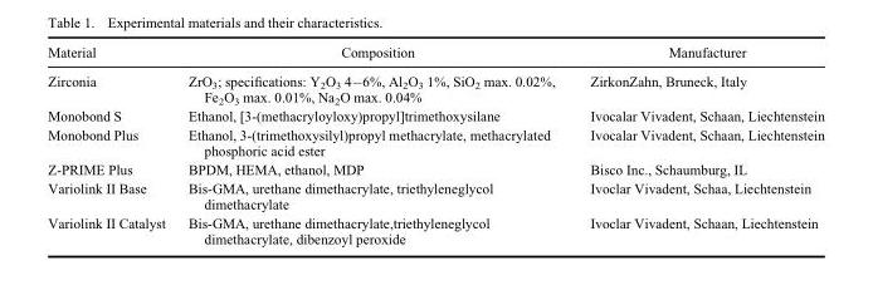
<table><thead><tr><td>Material</td><td>Composition</td><td>Manufacturer</td></tr></thead><tbody><tr><td>Zirconia</td><td>ZrO<sub>3</sub>; specifications: Y<sub>2</sub>O<sub>3</sub> 4–6%, Al<sub>2</sub>O<sub>3</sub> 1%, SiO<sub>2</sub> max. 0.02%, Fe<sub>2</sub>O<sub>3</sub> max. 0.01%, Na<sub>2</sub>O max. 0.04%</td><td>ZirkonZahn, Bruneck, Italy</td></tr><tr><td>Monobond S</td><td>Ethanol, [3-(methacryloyloxy)propyl]trimethoxysilane</td><td>Ivocalar Vivadent, Schaan, Liechtenstein</td></tr><tr><td>Monobond Plus</td><td>Ethanol, 3-(trimethoxysilyl)propyl methacrylate, methacrylated phosphoric acid ester</td><td>Ivocalar Vivadent, Schaan, Liechtenstein</td></tr><tr><td>Z-PRIME Plus</td><td>BPDM, HEMA, ethanol, MDP</td><td>Bisco Inc., Schaumburg, IL</td></tr><tr><td>Variolink II Base</td><td>Bis-GMA, urethane dimethacrylate, triethyleneglycol dimethacrylate</td><td>Ivoclar Vivadent, Schaa, Liechtenstein</td></tr><tr><td>Variolink II Catalyst</td><td>Bis-GMA, urethane dimethacrylate,triethyleneglycol dimethacrylate, dibenzoyl peroxide</td><td>Ivoclar Vivadent, Schaan, Liechtenstein</td></tr></tbody></table>